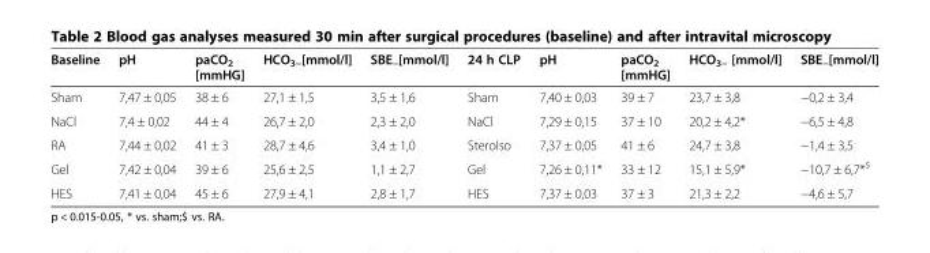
<table><thead><tr><td>Baseline</td><td>pH</td><td>paCO<sub>2</sub> [mmHG]</td><td>HCO<sub>3−</sub>[mmol/l]</td><td>SBE<sub>−</sub>[mmol/l]</td><td>24 h CLP</td><td>pH</td><td>paCO<sub>2</sub> [mmHG]</td><td>HCO<sub>3−</sub> [mmol/l]</td><td>SBE<sub>−</sub>[mmol/l]</td></tr></thead><tbody><tr><td>Sham</td><td>7,47 ± 0,05</td><td>38 ± 6</td><td>27,1 ± 1,5</td><td>3,5 ± 1,6</td><td>Sham</td><td>7,40 ± 0,03</td><td>39 ± 7</td><td>23,7 ± 3,8</td><td>−0,2 ± 3,4</td></tr><tr><td>NaCl</td><td>7,4 ± 0,02</td><td>44 ± 4</td><td>26,7 ± 2,0</td><td>2,3 ± 2,0</td><td>NaCl</td><td>7,29 ± 0,15</td><td>37 ± 10</td><td>20,2 ± 4,2*</td><td>−6,5 ± 4,8</td></tr><tr><td>RA</td><td>7,44 ± 0,02</td><td>41 ± 3</td><td>28,7 ± 4,6</td><td>3,4 ± 1,0</td><td>SteroIso</td><td>7,37 ± 0,05</td><td>41 ± 6</td><td>24,7 ± 3,8</td><td>−1,4 ± 3,5</td></tr><tr><td>Gel</td><td>7,42 ± 0,04</td><td>39 ± 6</td><td>25,6 ± 2,5</td><td>1,1 ± 2,7</td><td>Gel</td><td>7,26 ± 0,11*</td><td>33 ± 12</td><td>15,1 ± 5,9*</td><td>−10,7 ± 6,7*<sup>$</sup></td></tr><tr><td>HES</td><td>7,41 ± 0,04</td><td>45 ± 6</td><td>27,9 ± 4,1</td><td>2,8 ± 1,7</td><td>HES</td><td>7,37 ± 0,03</td><td>37 ± 3</td><td>21,3 ± 2,2</td><td>−4,6 ± 5,7</td></tr></tbody></table>